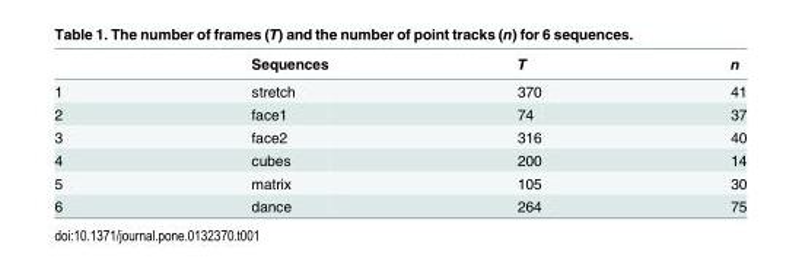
<table><thead><tr><td></td><td>Sequences</td><td>T</td><td>n</td></tr></thead><tbody><tr><td>1</td><td>stretch</td><td>370</td><td>41</td></tr><tr><td>2</td><td>face1</td><td>74</td><td>37</td></tr><tr><td>3</td><td>face2</td><td>316</td><td>40</td></tr><tr><td>4</td><td>cubes</td><td>200</td><td>14</td></tr><tr><td>5</td><td>matrix</td><td>105</td><td>30</td></tr><tr><td>6</td><td>dance</td><td>264</td><td>75</td></tr></tbody></table>